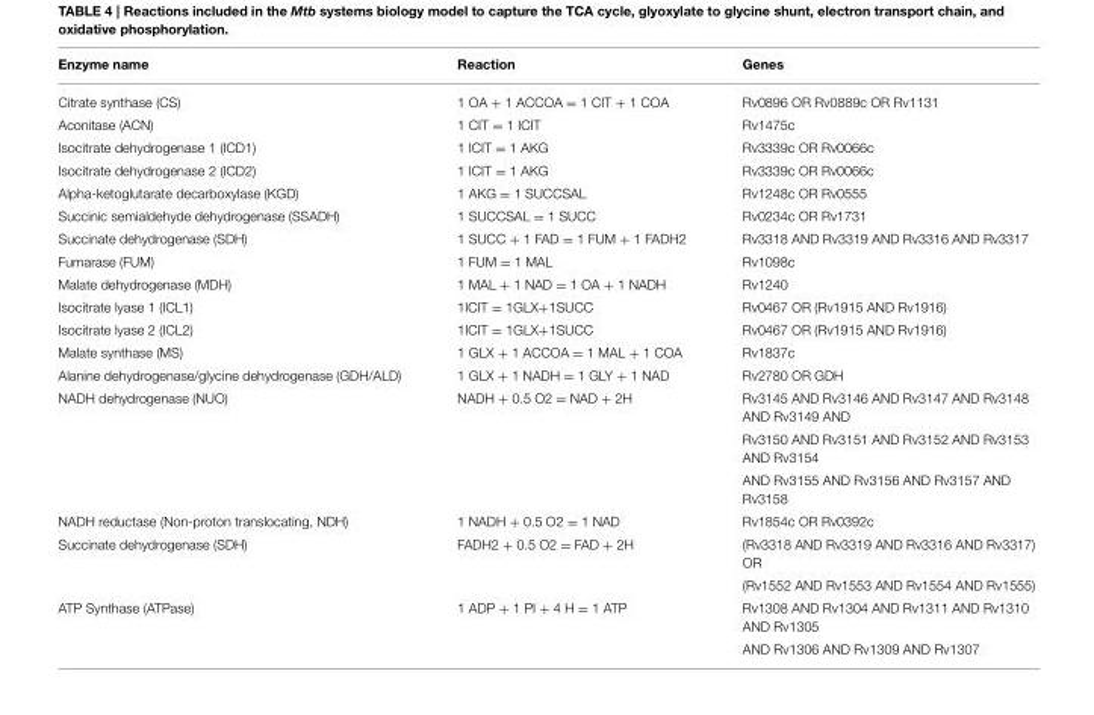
<table><thead><tr><td>Enzyme name</td><td>Reaction</td><td>Genes</td></tr></thead><tbody><tr><td>Citrate synthase (CS)</td><td>1 OA + 1 ACCOA = 1 CIT + 1 COA</td><td>Rv0896 OR Rv0889c OR Rv1131</td></tr><tr><td>Aconitase (ACN)</td><td>1 CIT = 1 ICIT</td><td>Rv1475c</td></tr><tr><td>Isocitrate dehydrogenase 1 (ICD1)</td><td>1 ICIT = 1 AKG</td><td>Rv3339c OR Rv0066c</td></tr><tr><td>Isocitrate dehydrogenase 2 (ICD2)</td><td>1 ICIT = 1 AKG</td><td>Rv3339c OR Rv0066c</td></tr><tr><td>Alpha-ketoglutarate decarboxylase (KGD)</td><td>1 AKG = 1 SUCCSAL</td><td>Rv1248c OR Rv0555</td></tr><tr><td>Succinic semialdehyde dehydrogenase (SSADH)</td><td>1 SUCCSAL = 1 SUCC</td><td>Rv0234c OR Rv1731</td></tr><tr><td>Succinate dehydrogenase (SDH)</td><td>1 SUCC + 1 FAD = 1 FUM + 1 FADH2</td><td>Rv3318 AND Rv3319 AND Rv3316 AND Rv3317</td></tr><tr><td>Fumarase (FUM)</td><td>1 FUM = 1 MAL</td><td>Rv1098c</td></tr><tr><td>Malate dehydrogenase (MDH)</td><td>1 MAL + 1 NAD = 1 OA + 1 NADH</td><td>Rv1240</td></tr><tr><td>Isocitrate lyase 1 (ICL1)</td><td>1ICIT = 1GLX+1SUCC</td><td>Rv0467 OR (Rv1915 AND Rv1916)</td></tr><tr><td>Isocitrate lyase 2 (ICL2)</td><td>1ICIT = 1GLX+1SUCC</td><td>Rv0467 OR (Rv1915 AND Rv1916)</td></tr><tr><td>Malate synthase (MS)</td><td>1 GLX + 1 ACCOA = 1 MAL + 1 COA</td><td>Rv1837c</td></tr><tr><td>Alanine dehydrogenase/glycine dehydrogenase (GDH/ALD)</td><td>1 GLX + 1 NADH = 1 GLY + 1 NAD</td><td>Rv2780 OR GDH</td></tr><tr><td rowspan="3">NADH dehydrogenase (NUO)</td><td>NADH + 0.5 O2 = NAD + 2H</td><td>Rv3145 AND Rv3146 AND Rv3147 AND Rv3148 AND Rv3149 AND</td></tr><tr><td></td><td>Rv3150 AND Rv3151 AND Rv3152 AND Rv3153 AND Rv3154</td></tr><tr><td></td><td>AND Rv3155 AND Rv3156 AND Rv3157 AND Rv3158</td></tr><tr><td>NADH reductase (Non-proton translocating, NDH)</td><td>1 NADH + 0.5 O2 = 1 NAD</td><td>Rv1854c OR Rv0392c</td></tr><tr><td rowspan="2">Succinate dehydrogenase (SDH)</td><td>FADH2 + 0.5 O2 = FAD + 2H</td><td>(Rv3318 AND Rv3319 AND Rv3316 AND Rv3317) OR</td></tr><tr><td></td><td>(Rv1552 AND Rv1553 AND Rv1554 AND Rv1555)</td></tr><tr><td rowspan="2">ATP Synthase (ATPase)</td><td>1 ADP + 1 PI + 4 H = 1 ATP</td><td>Rv1308 AND Rv1304 AND Rv1311 AND Rv1310 AND Rv1305</td></tr><tr><td></td><td>AND Rv1306 AND Rv1309 AND Rv1307</td></tr></tbody></table>